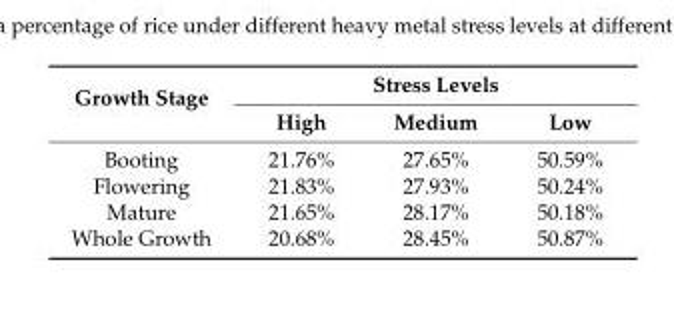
<table><thead><tr><td rowspan="2">Growth Stage</td><td colspan="3">Stress Levels</td></tr><tr><td>High</td><td>Medium</td><td>Low</td></tr></thead><tbody><tr><td>Booting</td><td>21.76%</td><td>27.65%</td><td>50.59%</td></tr><tr><td>Flowering</td><td>21.83%</td><td>27.93%</td><td>50.24%</td></tr><tr><td>Mature</td><td>21.65%</td><td>28.17%</td><td>50.18%</td></tr><tr><td>Whole Growth</td><td>20.68%</td><td>28.45%</td><td>50.87%</td></tr></tbody></table>